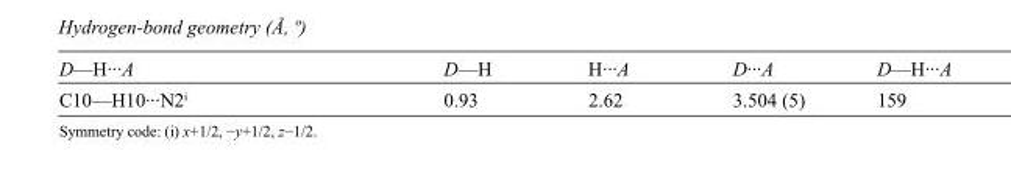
<table><tbody><tr><td>D—H···A</td><td>D—H</td><td>H···A</td><td>D···A</td><td>D—H···A</td></tr><tr><td>C10—H10···N2<sup>i</sup></td><td>0.93</td><td>2.62</td><td>3.504 (5)</td><td>159</td></tr></tbody></table>